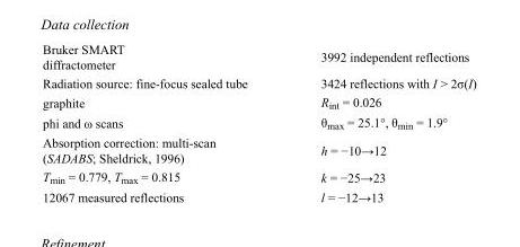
<table><tbody><tr><td>Bruker SMART diffractometer</td><td>3992 independent reflections</td></tr><tr><td>Radiation source: fine-focus sealed tube</td><td>3424 reflections with I &gt; 2σ(I)</td></tr><tr><td>graphite</td><td>R<sub>int</sub> = 0.026</td></tr><tr><td>phi and ω scans</td><td>θ<sub>max</sub> = 25.1°, θ<sub>min</sub> = 1.9°</td></tr><tr><td>Absorption correction: multi-scan (SADABS; Sheldrick, 1996)</td><td>h = −10→12</td></tr><tr><td>T<sub>min</sub> = 0.779, T<sub>max</sub> = 0.815</td><td>k = −25→23</td></tr><tr><td>12067 measured reflections</td><td>l = −12→13</td></tr></tbody></table>